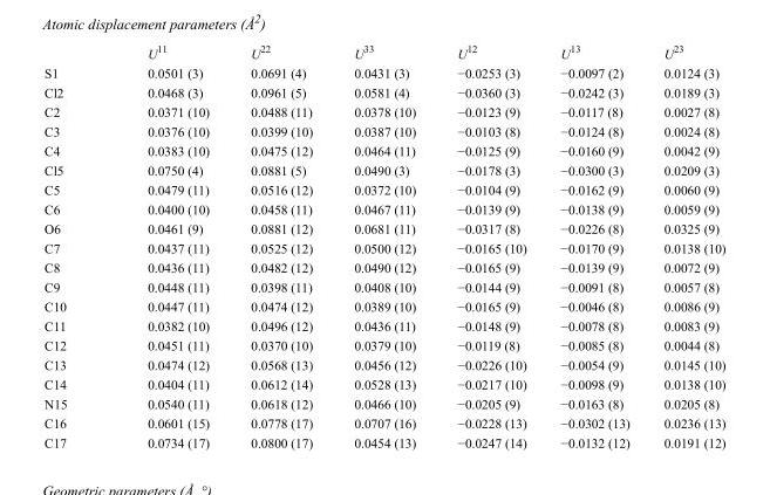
<table><thead><tr><td></td><td>U<sup>11</sup></td><td>U<sup>22</sup></td><td>U<sup>33</sup></td><td>U<sup>12</sup></td><td>U<sup>13</sup></td><td>U<sup>23</sup></td></tr></thead><tbody><tr><td>S1</td><td>0.0501 (3)</td><td>0.0691 (4)</td><td>0.0431 (3)</td><td>−0.0253 (3)</td><td>−0.0097 (2)</td><td>0.0124 (3)</td></tr><tr><td>Cl2</td><td>0.0468 (3)</td><td>0.0961 (5)</td><td>0.0581 (4)</td><td>−0.0360 (3)</td><td>−0.0242 (3)</td><td>0.0189 (3)</td></tr><tr><td>C2</td><td>0.0371 (10)</td><td>0.0488 (11)</td><td>0.0378 (10)</td><td>−0.0123 (9)</td><td>−0.0117 (8)</td><td>0.0027 (8)</td></tr><tr><td>C3</td><td>0.0376 (10)</td><td>0.0399 (10)</td><td>0.0387 (10)</td><td>−0.0103 (8)</td><td>−0.0124 (8)</td><td>0.0024 (8)</td></tr><tr><td>C4</td><td>0.0383 (10)</td><td>0.0475 (12)</td><td>0.0464 (11)</td><td>−0.0125 (9)</td><td>−0.0160 (9)</td><td>0.0042 (9)</td></tr><tr><td>Cl5</td><td>0.0750 (4)</td><td>0.0881 (5)</td><td>0.0490 (3)</td><td>−0.0178 (3)</td><td>−0.0300 (3)</td><td>0.0209 (3)</td></tr><tr><td>C5</td><td>0.0479 (11)</td><td>0.0516 (12)</td><td>0.0372 (10)</td><td>−0.0104 (9)</td><td>−0.0162 (9)</td><td>0.0060 (9)</td></tr><tr><td>C6</td><td>0.0400 (10)</td><td>0.0458 (11)</td><td>0.0467 (11)</td><td>−0.0139 (9)</td><td>−0.0138 (9)</td><td>0.0059 (9)</td></tr><tr><td>O6</td><td>0.0461 (9)</td><td>0.0881 (12)</td><td>0.0681 (11)</td><td>−0.0317 (8)</td><td>−0.0226 (8)</td><td>0.0325 (9)</td></tr><tr><td>C7</td><td>0.0437 (11)</td><td>0.0525 (12)</td><td>0.0500 (12)</td><td>−0.0165 (10)</td><td>−0.0170 (9)</td><td>0.0138 (10)</td></tr><tr><td>C8</td><td>0.0436 (11)</td><td>0.0482 (12)</td><td>0.0490 (12)</td><td>−0.0165 (9)</td><td>−0.0139 (9)</td><td>0.0072 (9)</td></tr><tr><td>C9</td><td>0.0448 (11)</td><td>0.0398 (11)</td><td>0.0408 (10)</td><td>−0.0144 (9)</td><td>−0.0091 (8)</td><td>0.0057 (8)</td></tr><tr><td>C10</td><td>0.0447 (11)</td><td>0.0474 (12)</td><td>0.0389 (10)</td><td>−0.0165 (9)</td><td>−0.0046 (8)</td><td>0.0086 (9)</td></tr><tr><td>C11</td><td>0.0382 (10)</td><td>0.0496 (12)</td><td>0.0436 (11)</td><td>−0.0148 (9)</td><td>−0.0078 (8)</td><td>0.0083 (9)</td></tr><tr><td>C12</td><td>0.0451 (11)</td><td>0.0370 (10)</td><td>0.0379 (10)</td><td>−0.0119 (8)</td><td>−0.0085 (8)</td><td>0.0044 (8)</td></tr><tr><td>C13</td><td>0.0474 (12)</td><td>0.0568 (13)</td><td>0.0456 (12)</td><td>−0.0226 (10)</td><td>−0.0054 (9)</td><td>0.0145 (10)</td></tr><tr><td>C14</td><td>0.0404 (11)</td><td>0.0612 (14)</td><td>0.0528 (13)</td><td>−0.0217 (10)</td><td>−0.0098 (9)</td><td>0.0138 (10)</td></tr><tr><td>N15</td><td>0.0540 (11)</td><td>0.0618 (12)</td><td>0.0466 (10)</td><td>−0.0205 (9)</td><td>−0.0163 (8)</td><td>0.0205 (8)</td></tr><tr><td>C16</td><td>0.0601 (15)</td><td>0.0778 (17)</td><td>0.0707 (16)</td><td>−0.0228 (13)</td><td>−0.0302 (13)</td><td>0.0236 (13)</td></tr><tr><td>C17</td><td>0.0734 (17)</td><td>0.0800 (17)</td><td>0.0454 (13)</td><td>−0.0247 (14)</td><td>−0.0132 (12)</td><td>0.0191 (12)</td></tr></tbody></table>